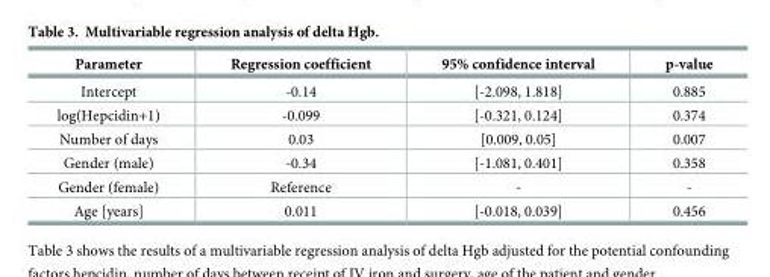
<table><thead><tr><td>Parameter</td><td>Regression coefficient</td><td>95% confidence interval</td><td>p-value</td></tr></thead><tbody><tr><td>Intercept</td><td>-0.14</td><td>[-2.098, 1.818]</td><td>0.885</td></tr><tr><td>log(Hepcidin+1)</td><td>-0.099</td><td>[-0.321, 0.124]</td><td>0.374</td></tr><tr><td>Number of days</td><td>0.03</td><td>[0.009, 0.05]</td><td>0.007</td></tr><tr><td>Gender (male)</td><td>-0.34</td><td>[-1.081, 0.401]</td><td>0.358</td></tr><tr><td>Gender (female)</td><td>Reference</td><td>-</td><td>-</td></tr><tr><td>Age [years]</td><td>0.011</td><td>[-0.018, 0.039]</td><td>0.456</td></tr></tbody></table>